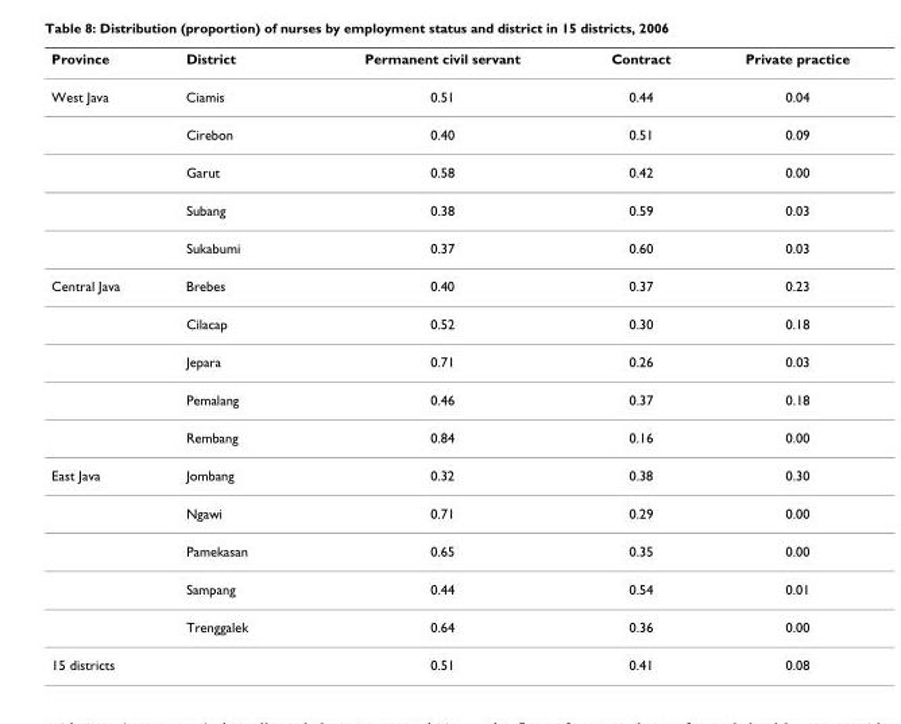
<table><thead><tr><td>Province</td><td>District</td><td>Permanent civil servant</td><td>Contract</td><td>Private practice</td></tr></thead><tbody><tr><td rowspan="5">West Java</td><td>Ciamis</td><td>0.51</td><td>0.44</td><td>0.04</td></tr><tr><td>Cirebon</td><td>0.40</td><td>0.51</td><td>0.09</td></tr><tr><td>Garut</td><td>0.58</td><td>0.42</td><td>0.00</td></tr><tr><td>Subang</td><td>0.38</td><td>0.59</td><td>0.03</td></tr><tr><td>Sukabumi</td><td>0.37</td><td>0.60</td><td>0.03</td></tr><tr><td rowspan="5">Central Java</td><td>Brebes</td><td>0.40</td><td>0.37</td><td>0.23</td></tr><tr><td>Cilacap</td><td>0.52</td><td>0.30</td><td>0.18</td></tr><tr><td>Jepara</td><td>0.71</td><td>0.26</td><td>0.03</td></tr><tr><td>Pemalang</td><td>0.46</td><td>0.37</td><td>0.18</td></tr><tr><td>Rembang</td><td>0.84</td><td>0.16</td><td>0.00</td></tr><tr><td rowspan="5">East Java</td><td>Jombang</td><td>0.32</td><td>0.38</td><td>0.30</td></tr><tr><td>Ngawi</td><td>0.71</td><td>0.29</td><td>0.00</td></tr><tr><td>Pamekasan</td><td>0.65</td><td>0.35</td><td>0.00</td></tr><tr><td>Sampang</td><td>0.44</td><td>0.54</td><td>0.01</td></tr><tr><td>Trenggalek</td><td>0.64</td><td>0.36</td><td>0.00</td></tr><tr><td>15 districts</td><td></td><td>0.51</td><td>0.41</td><td>0.08</td></tr></tbody></table>